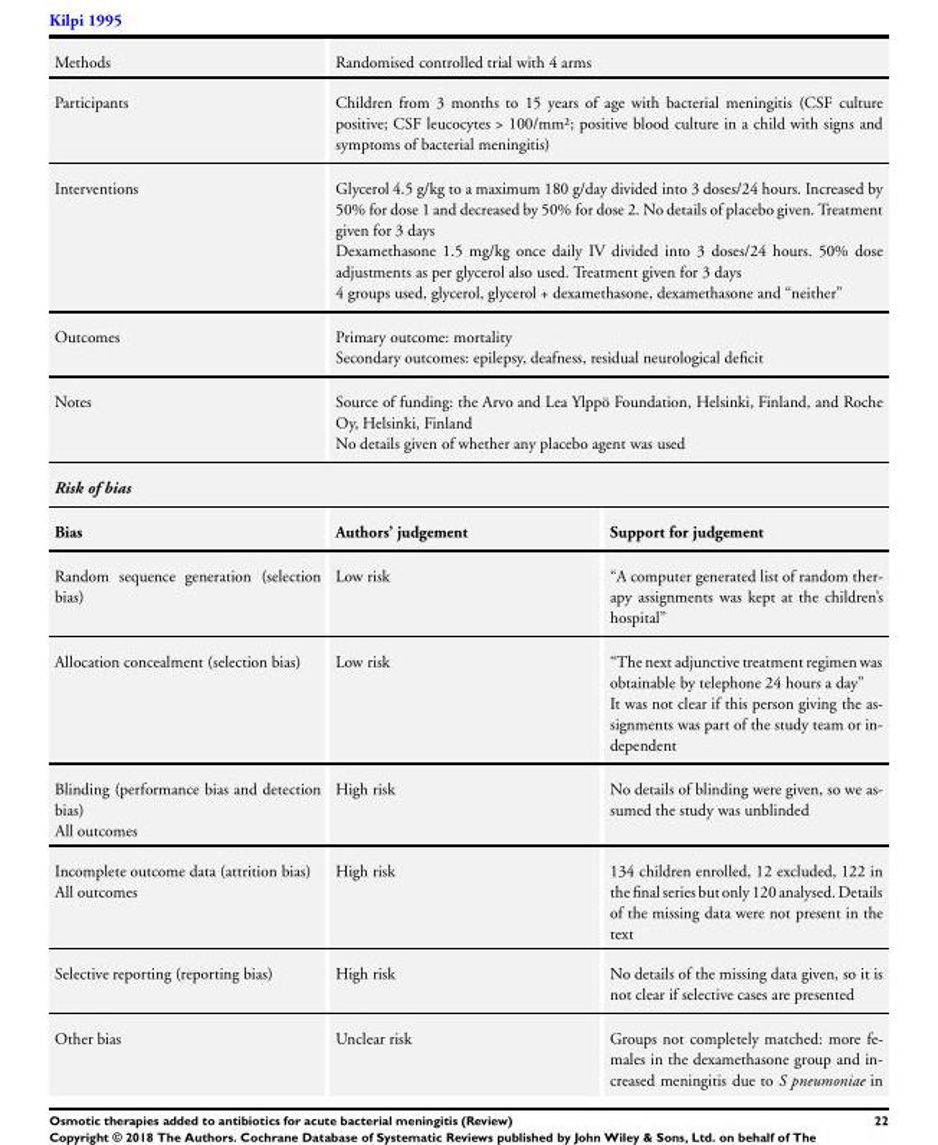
<table><tbody><tr><td>Methods</td><td colspan="2">Randomised controlled trial with 4 arms</td></tr><tr><td>Participants</td><td colspan="2">Children from 3 months to 15 years of age with bacterial meningitis (CSF culture positive; CSF leucocytes &gt; 100/mm²; positive blood culture in a child with signs and symptoms of bacterial meningitis)</td></tr><tr><td>Interventions</td><td colspan="2">Glycerol 4.5 g/kg to a maximum 180 g/day divided into 3 doses/24 hours. Increased by 50% for dose 1 and decreased by 50% for dose 2. No details of placebo given. Treatment given for 3 days Dexamethasone 1.5 mg/kg once daily IV divided into 3 doses/24 hours. 50% dose adjustments as per glycerol also used. Treatment given for 3 days 4 groups used, glycerol, glycerol + dexamethasone, dexamethasone and “neither”</td></tr><tr><td>Outcomes</td><td colspan="2">Primary outcome: mortality Secondary outcomes: epilepsy, deafness, residual neurological deficit</td></tr><tr><td>Notes</td><td colspan="2">Source of funding: the Arvo and Lea Ylppö Foundation, Helsinki, Finland, and Roche Oy, Helsinki, Finland No details given of whether any placebo agent was used</td></tr><tr><td colspan="3">Risk of bias</td></tr><tr><td>Bias</td><td>Authors’ judgement</td><td>Support for judgement</td></tr><tr><td>Random sequence generation (selection bias)</td><td>Low risk</td><td>“A computer generated list of random ther- apy assignments was kept at the children’s hospital”</td></tr><tr><td>Allocation concealment (selection bias)</td><td>Low risk</td><td>“The next adjunctive treatment regimen was obtainable by telephone 24 hours a day” It was not clear if this person giving the as- signments was part of the study team or in- dependent</td></tr><tr><td>Blinding (performance bias and detection bias) All outcomes</td><td>High risk</td><td>No details of blinding were given, so we as- sumed the study was unblinded</td></tr><tr><td>Incomplete outcome data (attrition bias) All outcomes</td><td>High risk</td><td>134 children enrolled, 12 excluded, 122 in the final seriesbutonly120analysed. Details of the missing data were not present in the text</td></tr><tr><td>Selective reporting (reporting bias)</td><td>High risk</td><td>No details of the missing data given, so it is not clear if selective cases are presented</td></tr><tr><td>Other bias</td><td>Unclear risk</td><td>Groups not completely matched: more fe- males in the dexamethasone group and in- creased meningitis due to S pneumoniae in</td></tr></tbody></table>